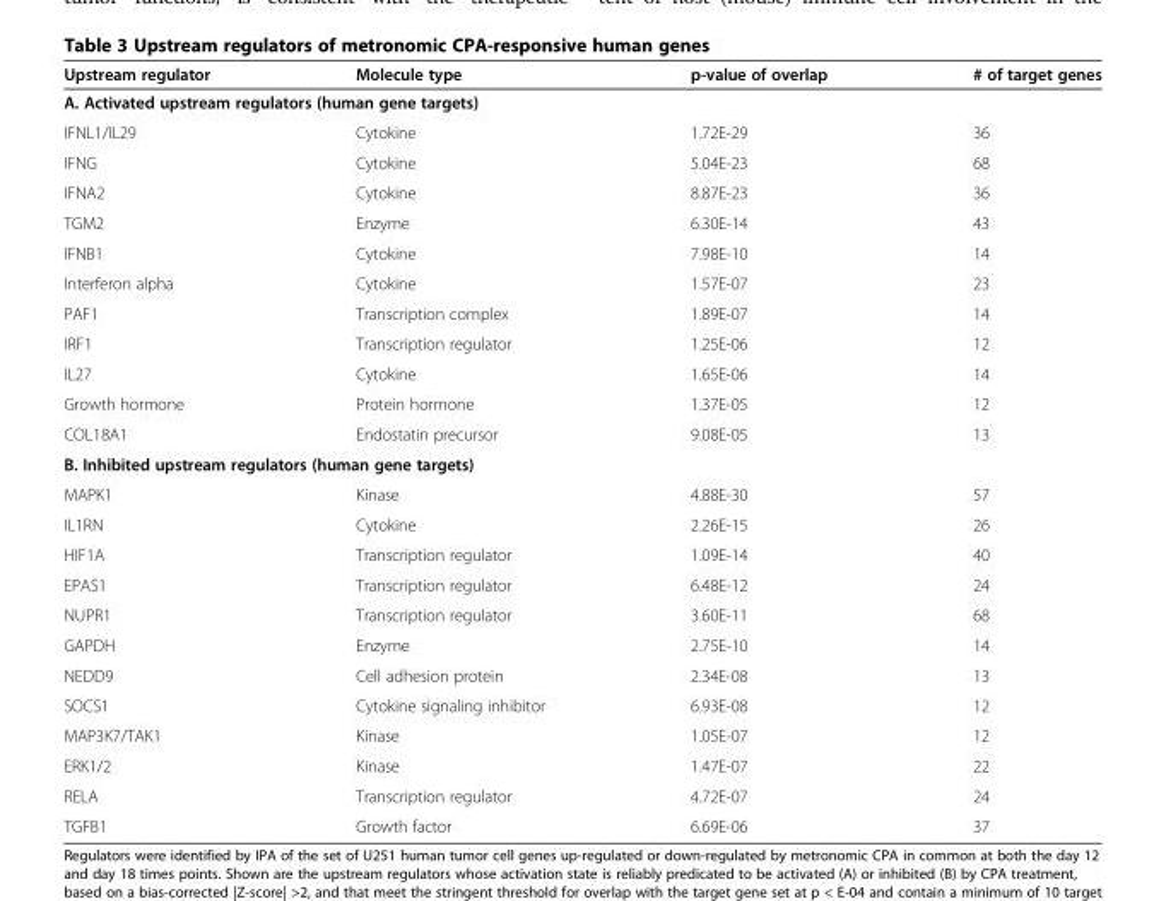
<table><thead><tr><td>Upstream regulator</td><td>Molecule type</td><td>p-value of overlap</td><td># of target genes</td></tr></thead><tbody><tr><td colspan="4">A. Activated upstream regulators (human gene targets)</td></tr><tr><td>IFNL1/IL29</td><td>Cytokine</td><td>1.72E-29</td><td>36</td></tr><tr><td>IFNG</td><td>Cytokine</td><td>5.04E-23</td><td>68</td></tr><tr><td>IFNA2</td><td>Cytokine</td><td>8.87E-23</td><td>36</td></tr><tr><td>TGM2</td><td>Enzyme</td><td>6.30E-14</td><td>43</td></tr><tr><td>IFNB1</td><td>Cytokine</td><td>7.98E-10</td><td>14</td></tr><tr><td>Interferon alpha</td><td>Cytokine</td><td>1.57E-07</td><td>23</td></tr><tr><td>PAF1</td><td>Transcription complex</td><td>1.89E-07</td><td>14</td></tr><tr><td>IRF1</td><td>Transcription regulator</td><td>1.25E-06</td><td>12</td></tr><tr><td>IL27</td><td>Cytokine</td><td>1.65E-06</td><td>14</td></tr><tr><td>Growth hormone</td><td>Protein hormone</td><td>1.37E-05</td><td>12</td></tr><tr><td>COL18A1</td><td>Endostatin precursor</td><td>9.08E-05</td><td>13</td></tr><tr><td colspan="4">B. Inhibited upstream regulators (human gene targets)</td></tr><tr><td>MAPK1</td><td>Kinase</td><td>4.88E-30</td><td>57</td></tr><tr><td>IL1RN</td><td>Cytokine</td><td>2.26E-15</td><td>26</td></tr><tr><td>HIF1A</td><td>Transcription regulator</td><td>1.09E-14</td><td>40</td></tr><tr><td>EPAS1</td><td>Transcription regulator</td><td>6.48E-12</td><td>24</td></tr><tr><td>NUPR1</td><td>Transcription regulator</td><td>3.60E-11</td><td>68</td></tr><tr><td>GAPDH</td><td>Enzyme</td><td>2.75E-10</td><td>14</td></tr><tr><td>NEDD9</td><td>Cell adhesion protein</td><td>2.34E-08</td><td>13</td></tr><tr><td>SOCS1</td><td>Cytokine signaling inhibitor</td><td>6.93E-08</td><td>12</td></tr><tr><td>MAP3K7/TAK1</td><td>Kinase</td><td>1.05E-07</td><td>12</td></tr><tr><td>ERK1/2</td><td>Kinase</td><td>1.47E-07</td><td>22</td></tr><tr><td>RELA</td><td>Transcription regulator</td><td>4.72E-07</td><td>24</td></tr><tr><td>TGFB1</td><td>Growth factor</td><td>6.69E-06</td><td>37</td></tr></tbody></table>